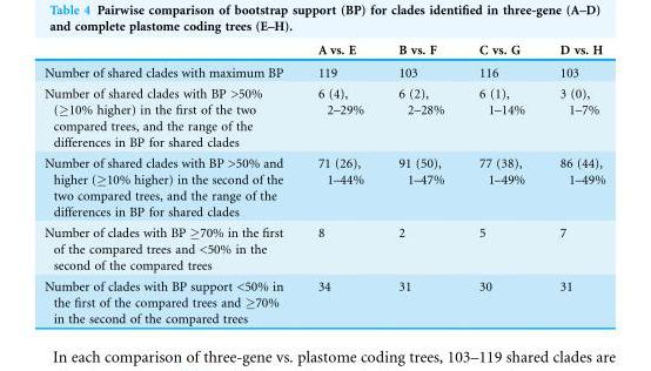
<table><thead><tr><td></td><td>A vs. E</td><td>B vs. F</td><td>C vs. G</td><td>D vs. H</td></tr></thead><tbody><tr><td>Number of shared clades with maximum BP</td><td>119</td><td>103</td><td>116</td><td>103</td></tr><tr><td>Number of shared clades with BP &gt;50% (≥10% higher) in the first of the two compared trees, and the range of the differences in BP for shared clades</td><td>6 (4), 2–29%</td><td>6 (2), 2–28%</td><td>6 (1), 1–14%</td><td>3 (0), 1–7%</td></tr><tr><td>Number of shared clades with BP &gt;50% and higher (≥10% higher) in the second of the two compared trees, and the range of the differences in BP for shared clades</td><td>71 (26), 1–44%</td><td>91 (50), 1–47%</td><td>77 (38), 1–49%</td><td>86 (44), 1–49%</td></tr><tr><td>Number of clades with BP ≥70% in the first of the compared trees and &lt;50% in the second of the compared trees</td><td>8</td><td>2</td><td>5</td><td>7</td></tr><tr><td>Number of clades with BP support &lt;50% in the first of the compared trees and ≥70% in the second of the compared trees</td><td>34</td><td>31</td><td>30</td><td>31</td></tr></tbody></table>